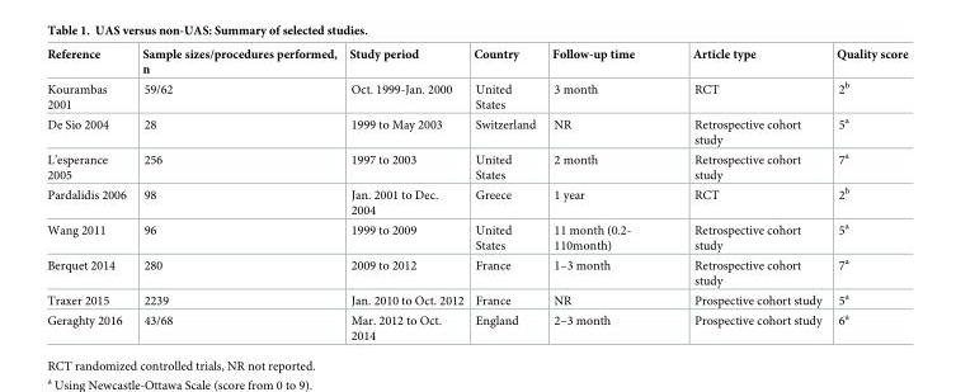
<table><thead><tr><td>Reference</td><td>Sample sizes/procedures performed, n</td><td>Study period</td><td>Country</td><td>Follow-up time</td><td>Article type</td><td>Quality score</td></tr></thead><tbody><tr><td>Kourambas 2001</td><td>59/62</td><td>Oct. 1999-Jan. 2000</td><td>United States</td><td>3 month</td><td>RCT</td><td>2<sup>b</sup></td></tr><tr><td>De Sio 2004</td><td>28</td><td>1999 to May 2003</td><td>Switzerland</td><td>NR</td><td>Retrospective cohort study</td><td>5<sup>a</sup></td></tr><tr><td>L’esperance 2005</td><td>256</td><td>1997 to 2003</td><td>United States</td><td>2 month</td><td>Retrospective cohort study</td><td>7<sup>a</sup></td></tr><tr><td>Pardalidis 2006</td><td>98</td><td>Jan. 2001 to Dec. 2004</td><td>Greece</td><td>1 year</td><td>RCT</td><td>2<sup>b</sup></td></tr><tr><td>Wang 2011</td><td>96</td><td>1999 to 2009</td><td>United States</td><td>11 month (0.2- 110month)</td><td>Retrospective cohort study</td><td>5<sup>a</sup></td></tr><tr><td>Berquet 2014</td><td>280</td><td>2009 to 2012</td><td>France</td><td>1–3 month</td><td>Retrospective cohort study</td><td>7<sup>a</sup></td></tr><tr><td>Traxer 2015</td><td>2239</td><td>Jan. 2010 to Oct. 2012</td><td>France</td><td>NR</td><td>Prospective cohort study</td><td>5<sup>a</sup></td></tr><tr><td>Geraghty 2016</td><td>43/68</td><td>Mar. 2012 to Oct. 2014</td><td>England</td><td>2–3 month</td><td>Prospective cohort study</td><td>6<sup>a</sup></td></tr></tbody></table>